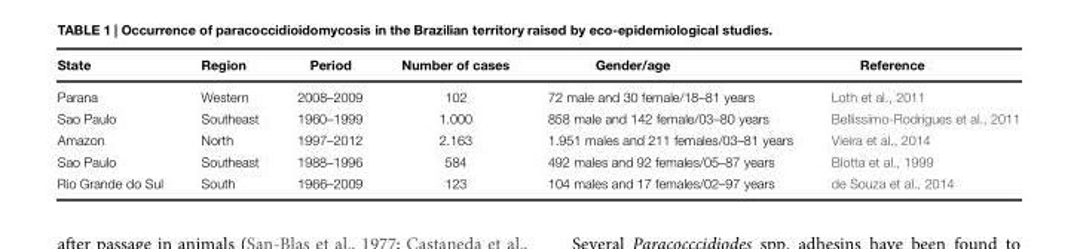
<table><thead><tr><td>State</td><td>Region</td><td>Period</td><td>Number of cases</td><td>Gender/age</td><td>Reference</td></tr></thead><tbody><tr><td>Parana</td><td>Western</td><td>2008–2009</td><td>102</td><td>72 male and 30 female/18–81 years</td><td>Loth et al., 2011</td></tr><tr><td>Sao Paulo</td><td>Southeast</td><td>1960–1999</td><td>1.000</td><td>858 male and 142 female/03–80 years</td><td>Bellissimo-Rodrigues et al., 2011</td></tr><tr><td>Amazon</td><td>North</td><td>1997–2012</td><td>2.163</td><td>1.951 males and 211 females/03–81 years</td><td>Vieira et al., 2014</td></tr><tr><td>Sao Paulo</td><td>Southeast</td><td>1988–1996</td><td>584</td><td>492 males and 92 females/05–87 years</td><td>Blotta et al., 1999</td></tr><tr><td>Rio Grande do Sul</td><td>South</td><td>1966–2009</td><td>123</td><td>104 males and 17 females/02–97 years</td><td>de Souza et al., 2014</td></tr></tbody></table>